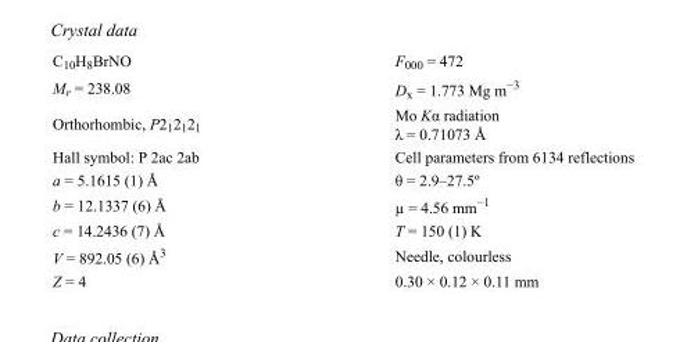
<table><tbody><tr><td>C<sub>10</sub>H<sub>8</sub>BrNO</td><td>F<sub>000</sub> = 472</td></tr><tr><td>M<sub>r</sub> = 238.08</td><td>D<sub>x</sub> = 1.773 Mg m<sup>−3</sup></td></tr><tr><td>Orthorhombic, P2<sub>1</sub>2<sub>1</sub>2<sub>1</sub></td><td>Mo Kα radiation λ = 0.71073 Å</td></tr><tr><td>Hall symbol: P 2ac 2ab</td><td>Cell parameters from 6134 reflections</td></tr><tr><td>a = 5.1615 (1) Å</td><td>θ = 2.9–27.5º</td></tr><tr><td>b = 12.1337 (6) Å</td><td>µ = 4.56 mm<sup>−1</sup></td></tr><tr><td>c = 14.2436 (7) Å</td><td>T = 150 (1) K</td></tr><tr><td>V = 892.05 (6) Å<sup>3</sup></td><td>Needle, colourless</td></tr><tr><td>Z = 4</td><td>0.30 × 0.12 × 0.11 mm</td></tr></tbody></table>